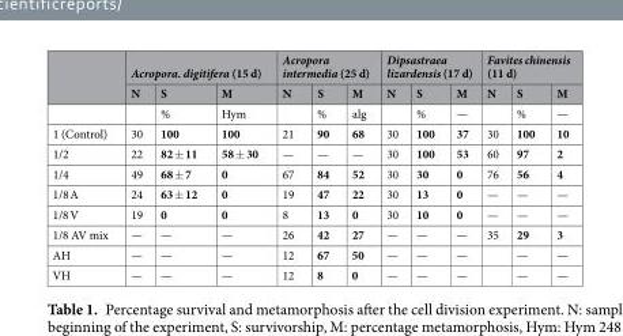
<table><thead><tr><td rowspan="2"></td><td colspan="3">Acropora. digitifera (15 d)</td><td colspan="3">Acropora intermedia (25 d)</td><td colspan="3">Dipsastraea lizardensis (17 d)</td><td colspan="3">Favites chinensis (11 d)</td></tr><tr><td>N</td><td>S</td><td>M</td><td>N</td><td>S</td><td>M</td><td>N</td><td>S</td><td>M</td><td>N</td><td>S</td><td>M</td></tr></thead><tbody><tr><td></td><td></td><td>%</td><td>Hym</td><td></td><td>%</td><td>alg</td><td></td><td>%</td><td>—</td><td></td><td>%</td><td>—</td></tr><tr><td>1 (Control)</td><td>30</td><td>100</td><td>100</td><td>21</td><td>90</td><td>68</td><td>30</td><td>100</td><td>37</td><td>30</td><td>100</td><td>10</td></tr><tr><td>1/2</td><td>22</td><td>82 ± 11</td><td>58 ± 30</td><td>—</td><td>—</td><td>—</td><td>30</td><td>100</td><td>53</td><td>60</td><td>97</td><td>2</td></tr><tr><td>1/4</td><td>49</td><td>68 ± 7</td><td>0</td><td>67</td><td>84</td><td>52</td><td>30</td><td>30</td><td>0</td><td>76</td><td>56</td><td>4</td></tr><tr><td>1/8 A</td><td>24</td><td>63 ± 12</td><td>0</td><td>19</td><td>47</td><td>22</td><td>30</td><td>13</td><td>0</td><td>—</td><td>—</td><td>—</td></tr><tr><td>1/8 V</td><td>19</td><td>0</td><td>0</td><td>8</td><td>13</td><td>0</td><td>30</td><td>10</td><td>0</td><td>—</td><td>—</td><td>—</td></tr><tr><td>1/8 AV mix</td><td>—</td><td>—</td><td>—</td><td>26</td><td>42</td><td>27</td><td>—</td><td>—</td><td>—</td><td>35</td><td>29</td><td>3</td></tr><tr><td>AH</td><td>—</td><td>—</td><td>—</td><td>12</td><td>67</td><td>50</td><td>—</td><td>—</td><td>—</td><td></td><td>—</td><td>—</td></tr><tr><td>VH</td><td>—</td><td>—</td><td>—</td><td>12</td><td>8</td><td>0</td><td>—</td><td>—</td><td>—</td><td></td><td>—</td><td>—</td></tr></tbody></table>